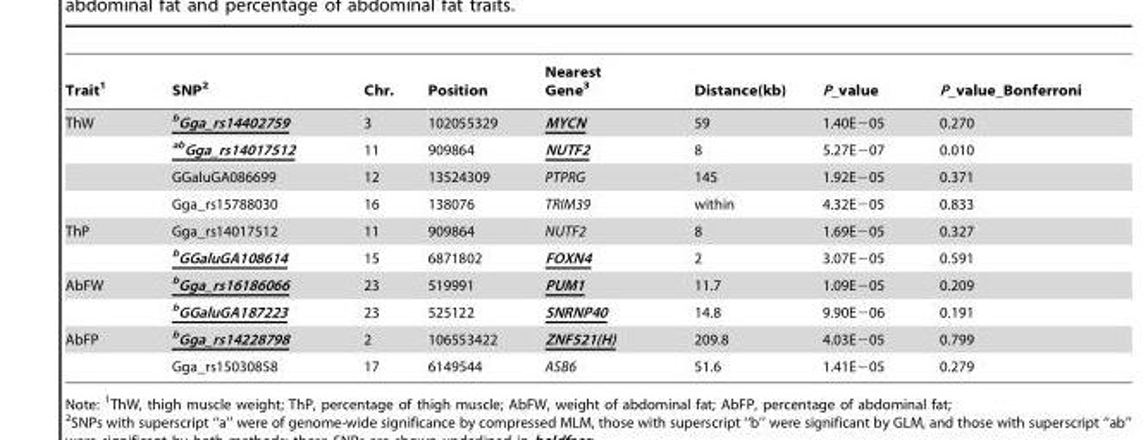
<table><thead><tr><td>Trait<sup>1</sup></td><td>SNP<sup>2</sup></td><td>Chr.</td><td>Position</td><td>Nearest Gene<sup>3</sup></td><td>Distance(kb)</td><td>P_value</td><td>P_value_Bonferroni</td></tr></thead><tbody><tr><td rowspan="4">ThW</td><td><sup>b</sup>Gga_rs14402759</td><td>3</td><td>102055329</td><td>MYCN</td><td>59</td><td>1.40E−05</td><td>0.270</td></tr><tr><td><sup>ab</sup>Gga_rs14017512</td><td>11</td><td>909864</td><td>NUTF2</td><td>8</td><td>5.27E−07</td><td>0.010</td></tr><tr><td>GGaluGA086699</td><td>12</td><td>13524309</td><td>PTPRG</td><td>145</td><td>1.92E−05</td><td>0.371</td></tr><tr><td>Gga_rs15788030</td><td>16</td><td>138076</td><td>TRIM39</td><td>within</td><td>4.32E−05</td><td>0.833</td></tr><tr><td rowspan="2">ThP</td><td>Gga_rs14017512</td><td>11</td><td>909864</td><td>NUTF2</td><td>8</td><td>1.69E−05</td><td>0.327</td></tr><tr><td><sup>b</sup>GGaluGA108614</td><td>15</td><td>6871802</td><td>FOXN4</td><td>2</td><td>3.07E−05</td><td>0.591</td></tr><tr><td rowspan="2">AbFW</td><td><sup>b</sup>Gga_rs16186066</td><td>23</td><td>519991</td><td>PUM1</td><td>11.7</td><td>1.09E−05</td><td>0.209</td></tr><tr><td><sup>b</sup>GGaluGA187223</td><td>23</td><td>525122</td><td>SNRNP40</td><td>14.8</td><td>9.90E−06</td><td>0.191</td></tr><tr><td rowspan="2">AbFP</td><td><sup>b</sup>Gga_rs14228798</td><td>2</td><td>106553422</td><td>ZNF521(H)</td><td>209.8</td><td>4.03E−05</td><td>0.799</td></tr><tr><td>Gga_rs15030858</td><td>17</td><td>6149544</td><td>ASB6</td><td>51.6</td><td>1.41E−05</td><td>0.279</td></tr></tbody></table>